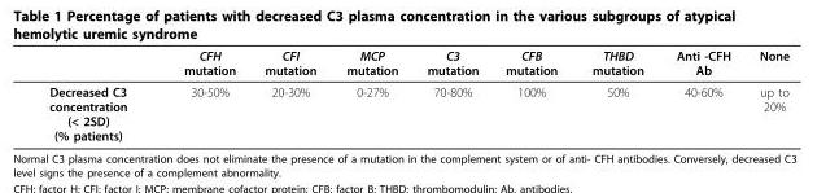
<table><thead><tr><td></td><td>CFH mutation</td><td>CFI mutation</td><td>MCP mutation</td><td>C3 mutation</td><td>CFB mutation</td><td>THBD mutation</td><td>Anti -CFH Ab</td><td>None</td></tr></thead><tbody><tr><td>Decreased C3 concentration (&lt; 2SD) (% patients)</td><td>30-50%</td><td>20-30%</td><td>0-27%</td><td>70-80%</td><td>100%</td><td>50%</td><td>40-60%</td><td>up to 20%</td></tr></tbody></table>